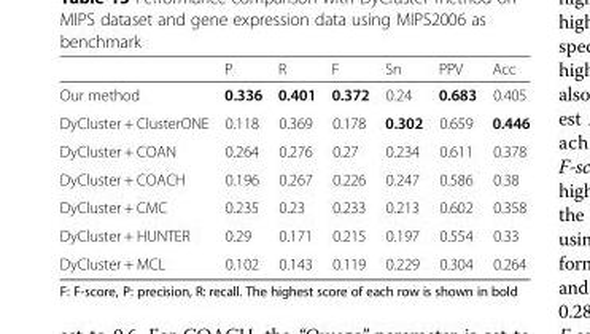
<table><thead><tr><td></td><td>P</td><td>R</td><td>F</td><td>Sn</td><td>PPV</td><td>Acc</td></tr></thead><tbody><tr><td>Our method</td><td>0.336</td><td>0.401</td><td>0.372</td><td>0.24</td><td>0.683</td><td>0.405</td></tr><tr><td>DyCluster + ClusterONE</td><td>0.118</td><td>0.369</td><td>0.178</td><td>0.302</td><td>0.659</td><td>0.446</td></tr><tr><td>DyCluster + COAN</td><td>0.264</td><td>0.276</td><td>0.27</td><td>0.234</td><td>0.611</td><td>0.378</td></tr><tr><td>DyCluster + COACH</td><td>0.196</td><td>0.267</td><td>0.226</td><td>0.247</td><td>0.586</td><td>0.38</td></tr><tr><td>DyCluster + CMC</td><td>0.235</td><td>0.23</td><td>0.233</td><td>0.213</td><td>0.602</td><td>0.358</td></tr><tr><td>DyCluster + HUNTER</td><td>0.29</td><td>0.171</td><td>0.215</td><td>0.197</td><td>0.554</td><td>0.33</td></tr><tr><td>DyCluster + MCL</td><td>0.102</td><td>0.143</td><td>0.119</td><td>0.229</td><td>0.304</td><td>0.264</td></tr></tbody></table>